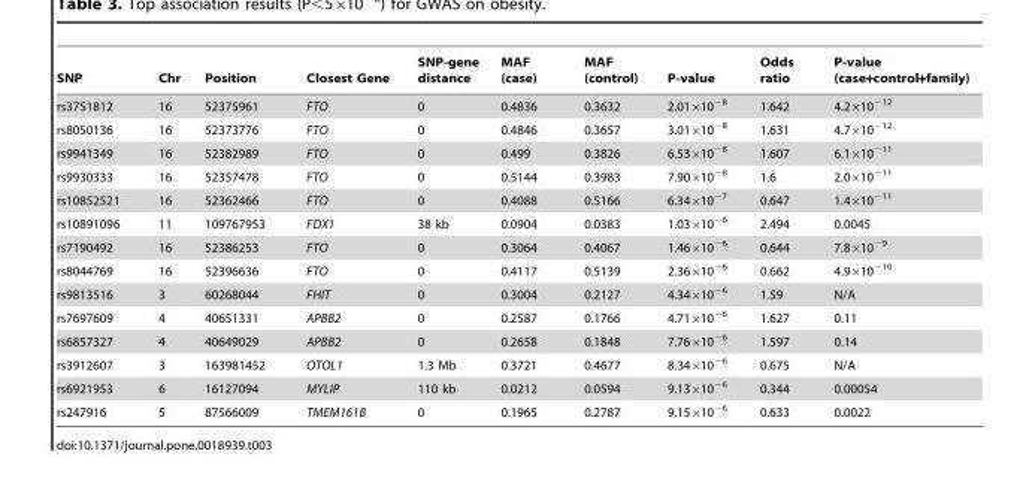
<table><thead><tr><td>SNP</td><td>Chr</td><td>Position</td><td>Closest Gene</td><td>SNP-gene distance</td><td>MAF (case)</td><td>MAF (control)</td><td>P-value</td><td>Odds ratio</td><td>P-value (case+control+family)</td></tr></thead><tbody><tr><td>rs3751812</td><td>16</td><td>52375961</td><td>FTO</td><td>0</td><td>0.4836</td><td>0.3632</td><td>2.01×10<sup>−8</sup></td><td>1.642</td><td>4.2×10<sup>−12</sup></td></tr><tr><td>rs8050136</td><td>16</td><td>52373776</td><td>FTO</td><td>0</td><td>0.4846</td><td>0.3657</td><td>3.01×10<sup>−8</sup></td><td>1.631</td><td>4.7×10<sup>−12</sup></td></tr><tr><td>rs9941349</td><td>16</td><td>52382989</td><td>FTO</td><td>0</td><td>0.499</td><td>0.3826</td><td>6.53×10<sup>−8</sup></td><td>1.607</td><td>6.1×10<sup>−11</sup></td></tr><tr><td>rs9930333</td><td>16</td><td>52357478</td><td>FTO</td><td>0</td><td>0.5144</td><td>0.3983</td><td>7.90×10<sup>−8</sup></td><td>1.6</td><td>2.0×10<sup>−11</sup></td></tr><tr><td>rs10852521</td><td>16</td><td>52362466</td><td>FTO</td><td>0</td><td>0.4088</td><td>0.5166</td><td>6.34×10<sup>−7</sup></td><td>0.647</td><td>1.4×10<sup>−11</sup></td></tr><tr><td>rs10891096</td><td>11</td><td>109767953</td><td>FDX1</td><td>38 kb</td><td>0.0904</td><td>0.0383</td><td>1.03×10<sup>−6</sup></td><td>2.494</td><td>0.0045</td></tr><tr><td>rs7190492</td><td>16</td><td>52386253</td><td>FTO</td><td>0</td><td>0.3064</td><td>0.4067</td><td>1.46×10<sup>−6</sup></td><td>0.644</td><td>7.8×10<sup>−9</sup></td></tr><tr><td>rs8044769</td><td>16</td><td>52396636</td><td>FTO</td><td>0</td><td>0.4117</td><td>0.5139</td><td>2.36×10<sup>−6</sup></td><td>0.662</td><td>4.9×10<sup>−10</sup></td></tr><tr><td>rs9813516</td><td>3</td><td>60268044</td><td>FHIT</td><td>0</td><td>0.3004</td><td>0.2127</td><td>4.34×10<sup>−6</sup></td><td>1.59</td><td>N/A</td></tr><tr><td>rs7697609</td><td>4</td><td>40651331</td><td>APBB2</td><td>0</td><td>0.2587</td><td>0.1766</td><td>4.71×10<sup>−6</sup></td><td>1.627</td><td>0.11</td></tr><tr><td>rs6857327</td><td>4</td><td>40649029</td><td>APBB2</td><td>0</td><td>0.2658</td><td>0.1848</td><td>7.76×10<sup>−6</sup></td><td>1.597</td><td>0.14</td></tr><tr><td>rs3912607</td><td>3</td><td>163981452</td><td>OTOL1</td><td>1.3 Mb</td><td>0.3721</td><td>0.4677</td><td>8.34×10<sup>−6</sup></td><td>0.675</td><td>N/A</td></tr><tr><td>rs6921953</td><td>6</td><td>16127094</td><td>MYLIP</td><td>110 kb</td><td>0.0212</td><td>0.0594</td><td>9.13×10<sup>−6</sup></td><td>0.344</td><td>0.00054</td></tr><tr><td>rs247916</td><td>5</td><td>87566009</td><td>TMEM161B</td><td>0</td><td>0.1965</td><td>0.2787</td><td>9.15×10<sup>−6</sup></td><td>0.633</td><td>0.0022</td></tr></tbody></table>